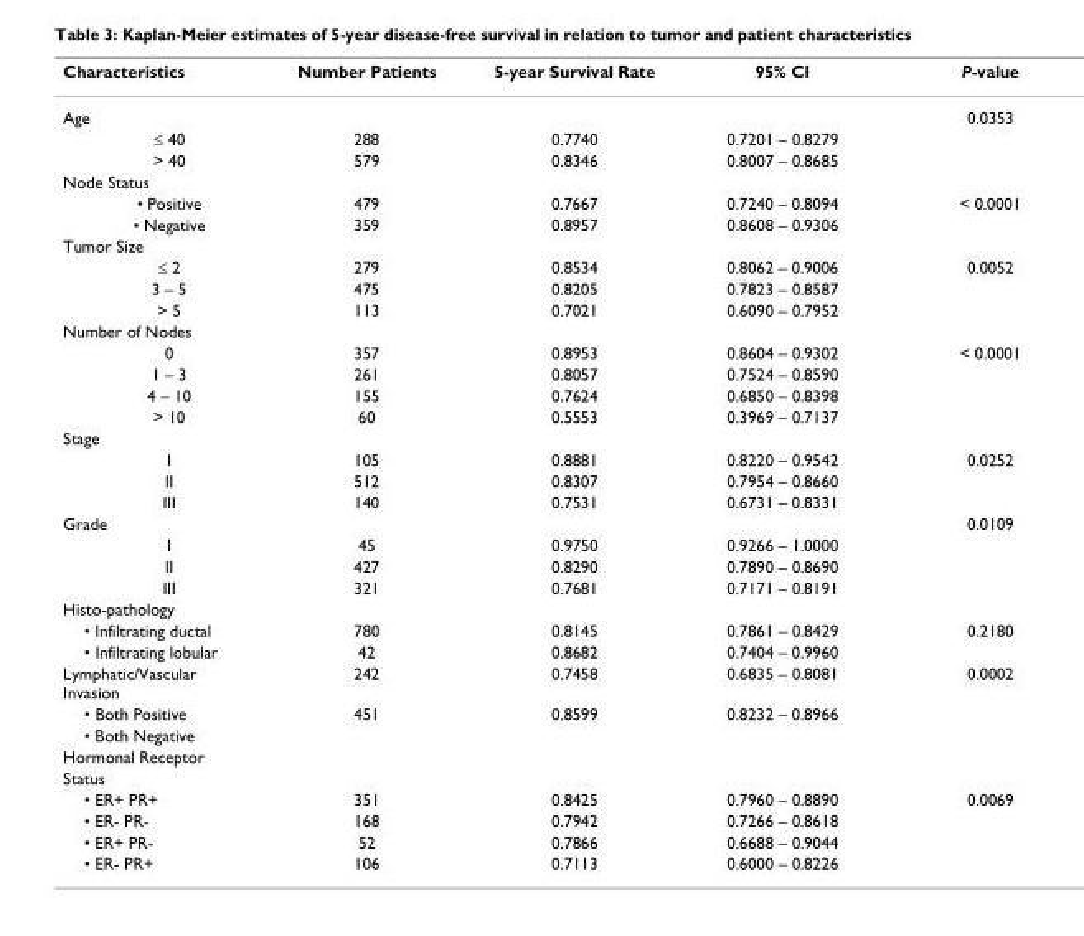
<table><thead><tr><td>Characteristics</td><td>Number Patients</td><td>5-year Survival Rate</td><td>95% CI</td><td>P-value</td></tr></thead><tbody><tr><td>Age</td><td></td><td></td><td></td><td>0.0353</td></tr><tr><td>≤ 40</td><td>288</td><td>0.7740</td><td>0.7201 – 0.8279</td><td></td></tr><tr><td>&gt; 40</td><td>579</td><td>0.8346</td><td>0.8007 – 0.8685</td><td></td></tr><tr><td colspan="5">Node Status</td></tr><tr><td>• Positive</td><td>479</td><td>0.7667</td><td>0.7240 – 0.8094</td><td>&lt; 0.0001</td></tr><tr><td>• Negative</td><td>359</td><td>0.8957</td><td>0.8608 – 0.9306</td><td></td></tr><tr><td colspan="5">Tumor Size</td></tr><tr><td>≤ 2</td><td>279</td><td>0.8534</td><td>0.8062 – 0.9006</td><td>0.0052</td></tr><tr><td>3 – 5</td><td>475</td><td>0.8205</td><td>0.7823 – 0.8587</td><td></td></tr><tr><td>&gt; 5</td><td>113</td><td>0.7021</td><td>0.6090 – 0.7952</td><td></td></tr><tr><td colspan="5">Number of Nodes</td></tr><tr><td>0</td><td>357</td><td>0.8953</td><td>0.8604 – 0.9302</td><td>&lt; 0.0001</td></tr><tr><td>1 – 3</td><td>261</td><td>0.8057</td><td>0.7524 – 0.8590</td><td></td></tr><tr><td>4 – 10</td><td>155</td><td>0.7624</td><td>0.6850 – 0.8398</td><td></td></tr><tr><td>&gt; 10</td><td>60</td><td>0.5553</td><td>0.3969 – 0.7137</td><td></td></tr><tr><td colspan="5">Stage</td></tr><tr><td>I</td><td>105</td><td>0.8881</td><td>0.8220 – 0.9542</td><td>0.0252</td></tr><tr><td>II</td><td>512</td><td>0.8307</td><td>0.7954 – 0.8660</td><td></td></tr><tr><td>III</td><td>140</td><td>0.7531</td><td>0.6731 – 0.8331</td><td></td></tr><tr><td>Grade</td><td></td><td></td><td></td><td>0.0109</td></tr><tr><td>I</td><td>45</td><td>0.9750</td><td>0.9266 – 1.0000</td><td></td></tr><tr><td>II</td><td>427</td><td>0.8290</td><td>0.7890 – 0.8690</td><td></td></tr><tr><td>III</td><td>321</td><td>0.7681</td><td>0.7171 – 0.8191</td><td></td></tr><tr><td colspan="5">Histo-pathology</td></tr><tr><td>• Infiltrating ductal</td><td>780</td><td>0.8145</td><td>0.7861 – 0.8429</td><td>0.2180</td></tr><tr><td>• Infiltrating lobular</td><td>42</td><td>0.8682</td><td>0.7404 – 0.9960</td><td></td></tr><tr><td>Lymphatic/Vascular Invasion</td><td>242</td><td>0.7458</td><td>0.6835 – 0.8081</td><td>0.0002</td></tr><tr><td>• Both Positive</td><td>451</td><td>0.8599</td><td>0.8232 – 0.8966</td><td></td></tr><tr><td colspan="5">• Both Negative</td></tr><tr><td colspan="5">Hormonal Receptor</td></tr><tr><td colspan="5">Status</td></tr><tr><td>• ER+ PR+</td><td>351</td><td>0.8425</td><td>0.7960 – 0.8890</td><td>0.0069</td></tr><tr><td>• ER- PR-</td><td>168</td><td>0.7942</td><td>0.7266 – 0.8618</td><td></td></tr><tr><td>• ER+ PR-</td><td>52</td><td>0.7866</td><td>0.6688 – 0.9044</td><td></td></tr><tr><td>• ER- PR+</td><td>106</td><td>0.7113</td><td>0.6000 – 0.8226</td><td></td></tr></tbody></table>